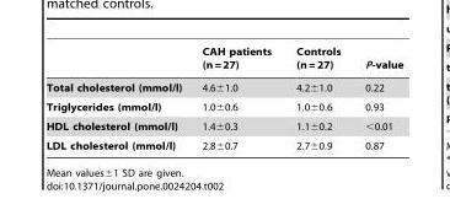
<table><thead><tr><td></td><td>CAH patients (n = 27)</td><td>Controls (n = 27)</td><td>P-value</td></tr></thead><tbody><tr><td>Total cholesterol (mmol/l)</td><td>4.6±1.0</td><td>4.2±1.0</td><td>0.22</td></tr><tr><td>Triglycerides (mmol/l)</td><td>1.0±0.6</td><td>1.0±0.6</td><td>0.93</td></tr><tr><td>HDL cholesterol (mmol/l)</td><td>1.4±0.3</td><td>1.1±0.2</td><td>&lt;0.01</td></tr><tr><td>LDL cholesterol (mmol/l)</td><td>2.8±0.7</td><td>2.7±0.9</td><td>0.87</td></tr></tbody></table>